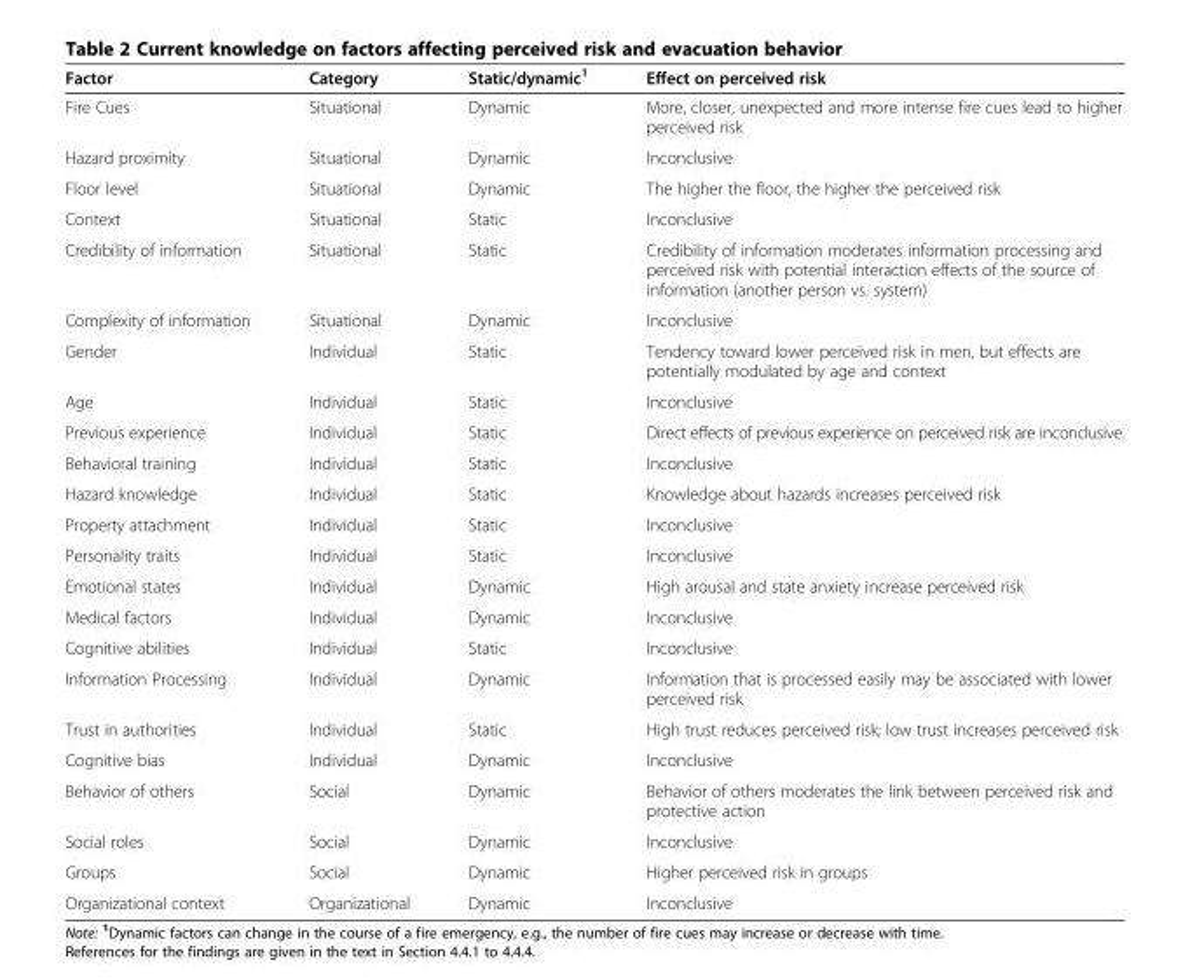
<table><thead><tr><td>Factor</td><td>Category</td><td>Static/dynamic<sup>1</sup></td><td>Effect on perceived risk</td></tr></thead><tbody><tr><td>Fire Cues</td><td>Situational</td><td>Dynamic</td><td>More, closer, unexpected and more intense fire cues lead to higher perceived risk</td></tr><tr><td>Hazard proximity</td><td>Situational</td><td>Dynamic</td><td>Inconclusive</td></tr><tr><td>Floor level</td><td>Situational</td><td>Dynamic</td><td>The higher the floor, the higher the perceived risk</td></tr><tr><td>Context</td><td>Situational</td><td>Static</td><td>Inconclusive</td></tr><tr><td>Credibility of information</td><td>Situational</td><td>Static</td><td>Credibility of information moderates information processing and perceived risk with potential interaction effects of the source of information (another person vs. system)</td></tr><tr><td>Complexity of information</td><td>Situational</td><td>Dynamic</td><td>Inconclusive</td></tr><tr><td>Gender</td><td>Individual</td><td>Static</td><td>Tendency toward lower perceived risk in men, but effects are potentially modulated by age and context</td></tr><tr><td>Age</td><td>Individual</td><td>Static</td><td>Inconclusive</td></tr><tr><td>Previous experience</td><td>Individual</td><td>Static</td><td>Direct effects of previous experience on perceived risk are inconclusive.</td></tr><tr><td>Behavioral training</td><td>Individual</td><td>Static</td><td>Inconclusive</td></tr><tr><td>Hazard knowledge</td><td>Individual</td><td>Static</td><td>Knowledge about hazards increases perceived risk</td></tr><tr><td>Property attachment</td><td>Individual</td><td>Static</td><td>Inconclusive</td></tr><tr><td>Personality traits</td><td>Individual</td><td>Static</td><td>Inconclusive</td></tr><tr><td>Emotional states</td><td>Individual</td><td>Dynamic</td><td>High arousal and state anxiety increase perceived risk</td></tr><tr><td>Medical factors</td><td>Individual</td><td>Dynamic</td><td>Inconclusive</td></tr><tr><td>Cognitive abilities</td><td>Individual</td><td>Static</td><td>Inconclusive</td></tr><tr><td>Information Processing</td><td>Individual</td><td>Dynamic</td><td>Information that is processed easily may be associated with lower perceived risk</td></tr><tr><td>Trust in authorities</td><td>Individual</td><td>Static</td><td>High trust reduces perceived risk; low trust increases perceived risk</td></tr><tr><td>Cognitive bias</td><td>Individual</td><td>Dynamic</td><td>Inconclusive</td></tr><tr><td>Behavior of others</td><td>Social</td><td>Dynamic</td><td>Behavior of others moderates the link between perceived risk and protective action</td></tr><tr><td>Social roles</td><td>Social</td><td>Dynamic</td><td>Inconclusive</td></tr><tr><td>Groups</td><td>Social</td><td>Dynamic</td><td>Higher perceived risk in groups</td></tr><tr><td>Organizational context</td><td>Organizational</td><td>Dynamic</td><td>Inconclusive</td></tr></tbody></table>